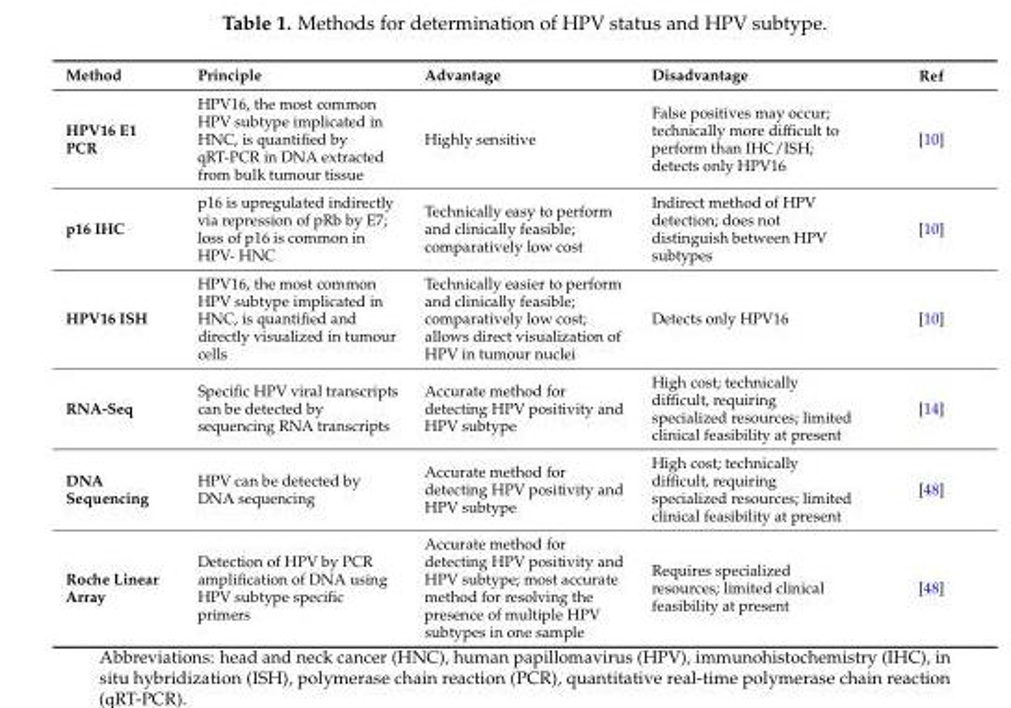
<table><thead><tr><td>Method</td><td>Principle</td><td>Advantage</td><td>Disadvantage</td><td>Ref</td></tr></thead><tbody><tr><td>HPV16 E1 PCR</td><td>HPV16, the most common HPV subtype implicated in HNC, is quantified by qRT-PCR in DNA extracted from bulk tumour tissue</td><td>Highly sensitive</td><td>False positives may occur; technically more difficult to perform than IHC/ISH; detects only HPV16</td><td>[10]</td></tr><tr><td>p16 IHC</td><td>p16 is upregulated indirectly via repression of pRb by E7; loss of p16 is common in HPV- HNC</td><td>Technically easy to perform and clinically feasible; comparatively low cost</td><td>Indirect method of HPV detection; does not distinguish between HPV subtypes</td><td>[10]</td></tr><tr><td>HPV16 ISH</td><td>HPV16, the most common HPV subtype implicated in HNC, is quantified and directly visualized in tumour cells</td><td>Technically easier to perform and clinically feasible; comparatively low cost; allows direct visualization of HPV in tumour nuclei</td><td>Detects only HPV16</td><td>[10]</td></tr><tr><td>RNA-Seq</td><td>Specific HPV viral transcripts can be detected by sequencing RNA transcripts</td><td>Accurate method for detecting HPV positivity and HPV subtype</td><td>High cost; technically difficult, requiring specialized resources; limited clinical feasibility at present</td><td>[14]</td></tr><tr><td>DNA Sequencing</td><td>HPV can be detected by DNA sequencing</td><td>Accurate method for detecting HPV positivity and HPV subtype</td><td>High cost; technically difficult, requiring specialized resources; limited clinical feasibility at present</td><td>[48]</td></tr><tr><td>Roche Linear Array</td><td>Detection of HPV by PCR amplification of DNA using HPV subtype specific primers</td><td>Accurate method for detecting HPV positivity and HPV subtype; most accurate method for resolving the presence of multiple HPV subtypes in one sample</td><td>Requires specialized resources; limited clinical feasibility at present</td><td>[48]</td></tr></tbody></table>